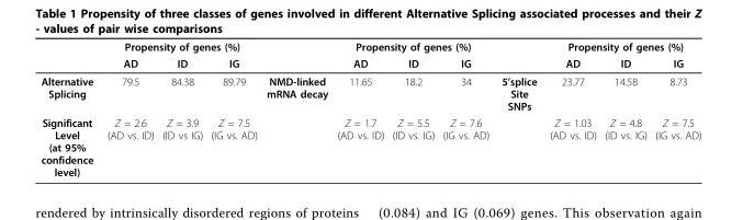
<table><thead><tr><td rowspan="2"></td><td colspan="3">Propensity of genes (%)</td><td rowspan="2"></td><td colspan="3">Propensity of genes (%)</td><td rowspan="2"></td><td colspan="3">Propensity of genes (%)</td></tr><tr><td>AD</td><td>ID</td><td>IG</td><td>AD</td><td>ID</td><td>IG</td><td>AD</td><td>ID</td><td>IG</td></tr></thead><tbody><tr><td>Alternative Splicing</td><td>79.5</td><td>84.38</td><td>89.79</td><td>NMD-linked mRNA decay</td><td>11.65</td><td>18.2</td><td>34</td><td>5’splice Site SNPs</td><td>23.77</td><td>14.58</td><td>8.73</td></tr><tr><td>Significant Level (at 95% confidence level)</td><td>Z = 2.6 (AD vs. ID)</td><td>Z = 3.9 (ID vs IG)</td><td>Z = 7.5 (IG vs. AD)</td><td></td><td>Z = 1.7 (AD vs. ID)</td><td>Z = 5.5 (ID vs. IG)</td><td>Z = 7.6 (IG vs. AD)</td><td></td><td>Z = 1.03 (AD vs. ID)</td><td>Z = 4.8 (ID vs. IG)</td><td>Z = 7.5 (IG vs. AD)</td></tr></tbody></table>